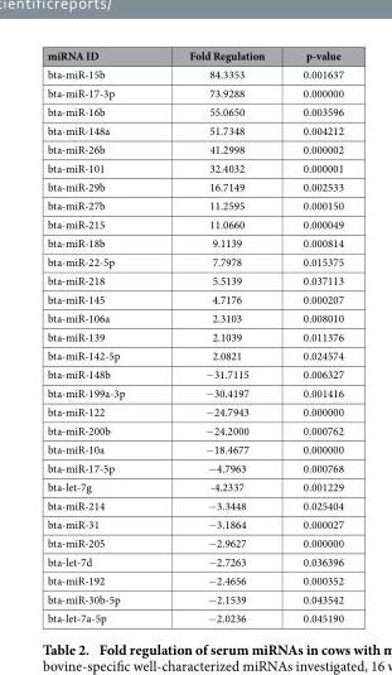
<table><thead><tr><td>miRNA ID</td><td>Fold Regulation</td><td>p-value</td></tr></thead><tbody><tr><td>bta-miR-15b</td><td>84.3353</td><td>0.001637</td></tr><tr><td>bta-miR-17-3p</td><td>73.9288</td><td>0.000000</td></tr><tr><td>bta-miR-16b</td><td>55.0650</td><td>0.003596</td></tr><tr><td>bta-miR-148a</td><td>51.7348</td><td>0.004212</td></tr><tr><td>bta-miR-26b</td><td>41.2998</td><td>0.000002</td></tr><tr><td>bta-miR-101</td><td>32.4032</td><td>0.000001</td></tr><tr><td>bta-miR-29b</td><td>16.7149</td><td>0.002533</td></tr><tr><td>bta-miR-27b</td><td>11.2595</td><td>0.000150</td></tr><tr><td>bta-miR-215</td><td>11.0660</td><td>0.000049</td></tr><tr><td>bta-miR-18b</td><td>9.1139</td><td>0.000814</td></tr><tr><td>bta-miR-22-5p</td><td>7.7978</td><td>0.015375</td></tr><tr><td>bta-miR-218</td><td>5.5139</td><td>0.037113</td></tr><tr><td>bta-miR-145</td><td>4.7176</td><td>0.000207</td></tr><tr><td>bta-miR-106a</td><td>2.3103</td><td>0.008010</td></tr><tr><td>bta-miR-139</td><td>2.1039</td><td>0.011376</td></tr><tr><td>bta-miR-142-5p</td><td>2.0821</td><td>0.024574</td></tr><tr><td>bta-miR-148b</td><td>−31.7115</td><td>0.006327</td></tr><tr><td>bta-miR-199a-3p</td><td>−30.4197</td><td>0.001416</td></tr><tr><td>bta-miR-122</td><td>−24.7943</td><td>0.000000</td></tr><tr><td>bta-miR-200b</td><td>−24.2000</td><td>0.000762</td></tr><tr><td>bta-miR-10a</td><td>−18.4677</td><td>0.000000</td></tr><tr><td>bta-miR-17-5p</td><td>−4.7963</td><td>0.000768</td></tr><tr><td>bta-let-7g</td><td>-4.2337</td><td>0.001229</td></tr><tr><td>bta-miR-214</td><td>−3.3448</td><td>0.025404</td></tr><tr><td>bta-miR-31</td><td>−3.1864</td><td>0.000027</td></tr><tr><td>bta-miR-205</td><td>−2.9627</td><td>0.000000</td></tr><tr><td>bta-let-7d</td><td>−2.7263</td><td>0.036396</td></tr><tr><td>bta-miR-192</td><td>−2.4656</td><td>0.000352</td></tr><tr><td>bta-miR-30b-5p</td><td>−2.1539</td><td>0.043542</td></tr><tr><td>bta-let-7a-5p</td><td>−2.0236</td><td>0.045190</td></tr></tbody></table>